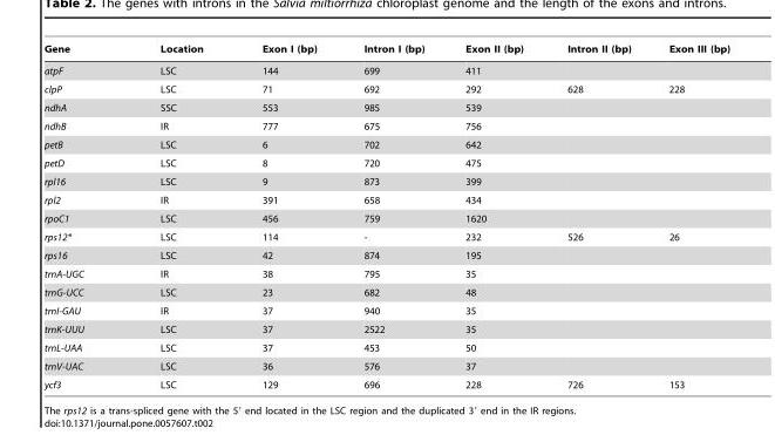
<table><thead><tr><td>Gene</td><td>Location</td><td>Exon I (bp)</td><td>Intron I (bp)</td><td>Exon II (bp)</td><td>Intron II (bp)</td><td>Exon III (bp)</td></tr></thead><tbody><tr><td>atpF</td><td>LSC</td><td>144</td><td>699</td><td>411</td><td></td><td></td></tr><tr><td>clpP</td><td>LSC</td><td>71</td><td>692</td><td>292</td><td>628</td><td>228</td></tr><tr><td>ndhA</td><td>SSC</td><td>553</td><td>985</td><td>539</td><td></td><td></td></tr><tr><td>ndhB</td><td>IR</td><td>777</td><td>675</td><td>756</td><td></td><td></td></tr><tr><td>petB</td><td>LSC</td><td>6</td><td>702</td><td>642</td><td></td><td></td></tr><tr><td>petD</td><td>LSC</td><td>8</td><td>720</td><td>475</td><td></td><td></td></tr><tr><td>rpl16</td><td>LSC</td><td>9</td><td>873</td><td>399</td><td></td><td></td></tr><tr><td>rpl2</td><td>IR</td><td>391</td><td>658</td><td>434</td><td></td><td></td></tr><tr><td>rpoC1</td><td>LSC</td><td>456</td><td>759</td><td>1620</td><td></td><td></td></tr><tr><td>rps12*</td><td>LSC</td><td>114</td><td>-</td><td>232</td><td>526</td><td>26</td></tr><tr><td>rps16</td><td>LSC</td><td>42</td><td>874</td><td>195</td><td></td><td></td></tr><tr><td>trnA-UGC</td><td>IR</td><td>38</td><td>795</td><td>35</td><td></td><td></td></tr><tr><td>trnG-UCC</td><td>LSC</td><td>23</td><td>682</td><td>48</td><td></td><td></td></tr><tr><td>trnI-GAU</td><td>IR</td><td>37</td><td>940</td><td>35</td><td></td><td></td></tr><tr><td>trnK-UUU</td><td>LSC</td><td>37</td><td>2522</td><td>35</td><td></td><td></td></tr><tr><td>trnL-UAA</td><td>LSC</td><td>37</td><td>453</td><td>50</td><td></td><td></td></tr><tr><td>trnV-UAC</td><td>LSC</td><td>36</td><td>576</td><td>37</td><td></td><td></td></tr><tr><td>ycf3</td><td>LSC</td><td>129</td><td>696</td><td>228</td><td>726</td><td>153</td></tr></tbody></table>